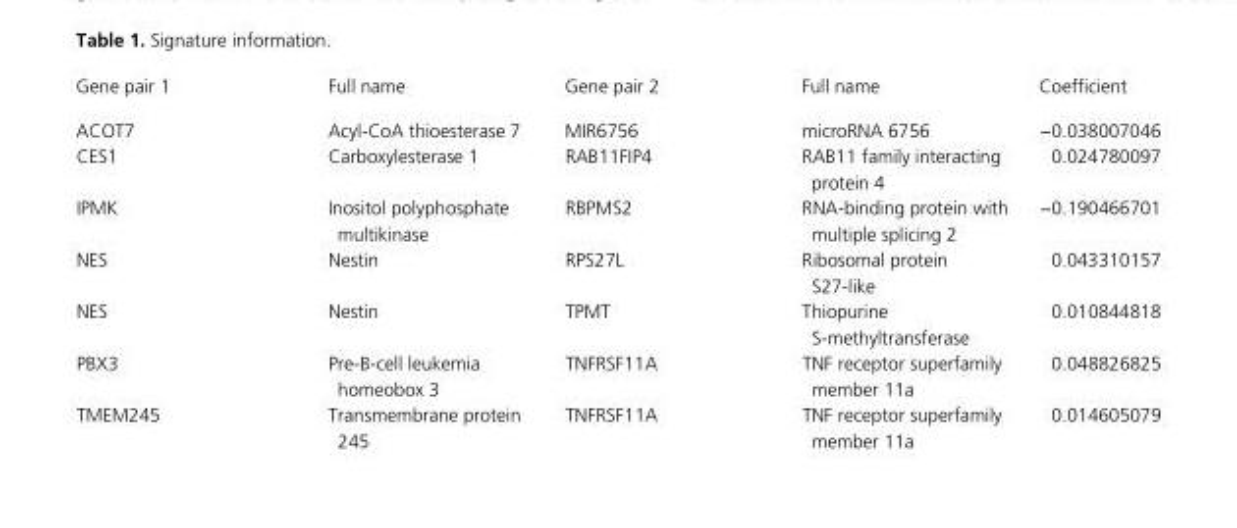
<table><thead><tr><td>Gene pair 1</td><td>Full name</td><td>Gene pair 2</td><td>Full name</td><td>Coefficient</td></tr></thead><tbody><tr><td>ACOT7</td><td>Acyl- CoA thioesterase 7</td><td>MIR6756</td><td>microRNA 6756</td><td>−0.038007046</td></tr><tr><td>CES1</td><td>Carboxylesterase 1</td><td>RAB11FIP4</td><td>RAB11 family interacting protein 4</td><td>0.024780097</td></tr><tr><td>IPMK</td><td>Inositol polyphosphate multikinase</td><td>RBPMS2</td><td>RNA- binding protein with multiple splicing 2</td><td>−0.190466701</td></tr><tr><td>NES</td><td>Nestin</td><td>RPS27L</td><td>Ribosomal protein S27- like</td><td>0.043310157</td></tr><tr><td>NES</td><td>Nestin</td><td>TPMT</td><td>Thiopurine S- methyltransferase</td><td>0.010844818</td></tr><tr><td>PBX3</td><td>Pre- B- cell leukemia homeobox 3</td><td>TNFRSF11A</td><td>TNF receptor superfamily member 11a</td><td>0.048826825</td></tr><tr><td>TMEM245</td><td>Transmembrane protein 245</td><td>TNFRSF11A</td><td>TNF receptor superfamily member 11a</td><td>0.014605079</td></tr></tbody></table>